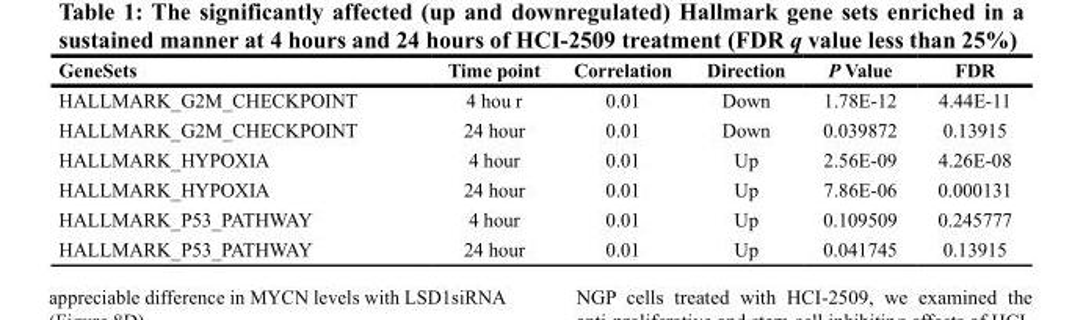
<table><thead><tr><td>GeneSets</td><td>Time point</td><td>Correlation</td><td>Direction</td><td>P Value</td><td>FDR</td></tr></thead><tbody><tr><td>HALLMARK_G2M_CHECKPOINT</td><td>4 hou r</td><td>0.01</td><td>Down</td><td>1.78E-12</td><td>4.44E-11</td></tr><tr><td>HALLMARK_G2M_CHECKPOINT</td><td>24 hour</td><td>0.01</td><td>Down</td><td>0.039872</td><td>0.13915</td></tr><tr><td>HALLMARK_HYPOXIA</td><td>4 hour</td><td>0.01</td><td>Up</td><td>2.56E-09</td><td>4.26E-08</td></tr><tr><td>HALLMARK_HYPOXIA</td><td>24 hour</td><td>0.01</td><td>Up</td><td>7.86E-06</td><td>0.000131</td></tr><tr><td>HALLMARK_P53_PATHWAY</td><td>4 hour</td><td>0.01</td><td>Up</td><td>0.109509</td><td>0.245777</td></tr><tr><td>HALLMARK_P53_PATHWAY</td><td>24 hour</td><td>0.01</td><td>Up</td><td>0.041745</td><td>0.13915</td></tr></tbody></table>